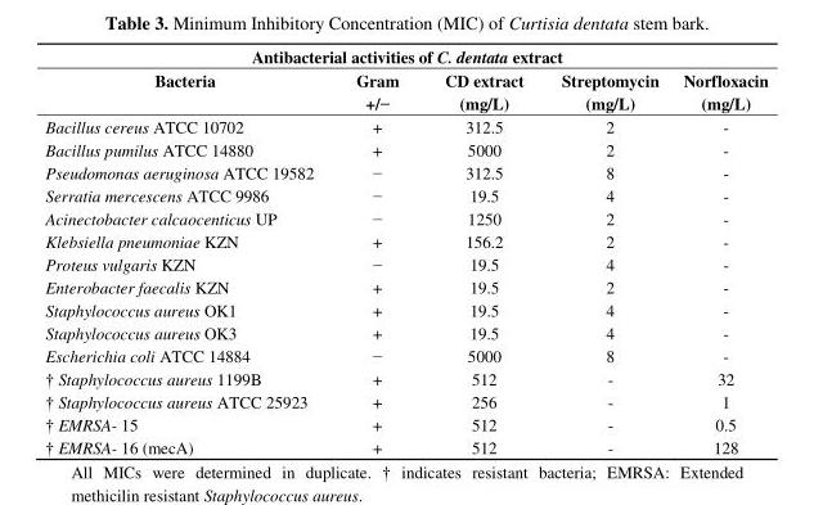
<table><thead><tr><td colspan="5">Antibacterial activities of C. dentata extract</td></tr><tr><td>Bacteria</td><td>Gram +/−</td><td>CD extract (mg/L)</td><td>Streptomycin (mg/L)</td><td>Norfloxacin (mg/L)</td></tr></thead><tbody><tr><td>Bacillus cereus ATCC 10702</td><td>+</td><td>312.5</td><td>2</td><td>-</td></tr><tr><td>Bacillus pumilus ATCC 14880</td><td>+</td><td>5000</td><td>2</td><td>-</td></tr><tr><td>Pseudomonas aeruginosa ATCC 19582</td><td>−</td><td>312.5</td><td>8</td><td>-</td></tr><tr><td>Serratia mercescens ATCC 9986</td><td>−</td><td>19.5</td><td>4</td><td>-</td></tr><tr><td>Acinectobacter calcaocenticus UP</td><td>−</td><td>1250</td><td>2</td><td>-</td></tr><tr><td>Klebsiella pneumoniae KZN</td><td>+</td><td>156.2</td><td>2</td><td>-</td></tr><tr><td>Proteus vulgaris KZN</td><td>−</td><td>19.5</td><td>4</td><td>-</td></tr><tr><td>Enterobacter faecalis KZN</td><td>+</td><td>19.5</td><td>2</td><td>-</td></tr><tr><td>Staphylococcus aureus OK1</td><td>+</td><td>19.5</td><td>4</td><td>-</td></tr><tr><td>Staphylococcus aureus OK3</td><td>+</td><td>19.5</td><td>4</td><td>-</td></tr><tr><td>Escherichia coli ATCC 14884</td><td>−</td><td>5000</td><td>8</td><td>-</td></tr><tr><td>† Staphylococcus aureus 1199B</td><td>+</td><td>512</td><td>-</td><td>32</td></tr><tr><td>† Staphylococcus aureus ATCC 25923</td><td>+</td><td>256</td><td>-</td><td>1</td></tr><tr><td>† EMRSA- 15</td><td>+</td><td>512</td><td>-</td><td>0.5</td></tr><tr><td>† EMRSA- 16 (mecA)</td><td>+</td><td>512</td><td>-</td><td>128</td></tr></tbody></table>